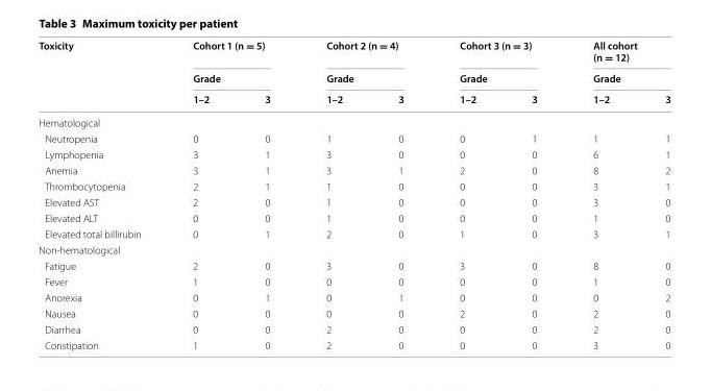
<table><thead><tr><td rowspan="3">Toxicity</td><td rowspan="2" colspan="2">Cohort 1 (n = 5) Grade</td><td rowspan="2" colspan="2">Cohort 2 (n = 4) Grade</td><td rowspan="2" colspan="2">Cohort 3 (n = 3) Grade</td><td rowspan="2" colspan="2">All cohort (n = 12) Grade</td></tr><tr></tr><tr><td>1–2</td><td>3</td><td>1–2</td><td>3</td><td>1–2</td><td>3</td><td>1–2</td><td>3</td></tr></thead><tbody><tr><td colspan="9">Hematological</td></tr><tr><td>Neutropenia</td><td>0</td><td>0</td><td>1</td><td>0</td><td>0</td><td>1</td><td>1</td><td>1</td></tr><tr><td>Lymphopenia</td><td>3</td><td>1</td><td>3</td><td>0</td><td>0</td><td>0</td><td>6</td><td>1</td></tr><tr><td>Anemia</td><td>3</td><td>1</td><td>3</td><td>1</td><td>2</td><td>0</td><td>8</td><td>2</td></tr><tr><td>Thrombocytopenia</td><td>2</td><td>1</td><td>1</td><td>0</td><td>0</td><td>0</td><td>3</td><td>1</td></tr><tr><td>Elevated AST</td><td>2</td><td>0</td><td>1</td><td>0</td><td>0</td><td>0</td><td>3</td><td>0</td></tr><tr><td>Elevated ALT</td><td>0</td><td>0</td><td>1</td><td>0</td><td>0</td><td>0</td><td>1</td><td>0</td></tr><tr><td>Elevated total billirubin</td><td>0</td><td>1</td><td>2</td><td>0</td><td>1</td><td>0</td><td>3</td><td>1</td></tr><tr><td colspan="9">Non-hematological</td></tr><tr><td>Fatigue</td><td>2</td><td>0</td><td>3</td><td>0</td><td>3</td><td>0</td><td>8</td><td>0</td></tr><tr><td>Fever</td><td>1</td><td>0</td><td>0</td><td>0</td><td>0</td><td>0</td><td>1</td><td>0</td></tr><tr><td>Anorexia</td><td>0</td><td>1</td><td>0</td><td>1</td><td>0</td><td>0</td><td>0</td><td>2</td></tr><tr><td>Nausea</td><td>0</td><td>0</td><td>0</td><td>0</td><td>2</td><td>0</td><td>2</td><td>0</td></tr><tr><td>Diarrhea</td><td>0</td><td>0</td><td>2</td><td>0</td><td>0</td><td>0</td><td>2</td><td>0</td></tr><tr><td>Constipation</td><td>1</td><td>0</td><td>2</td><td>0</td><td>0</td><td>0</td><td>3</td><td>0</td></tr></tbody></table>